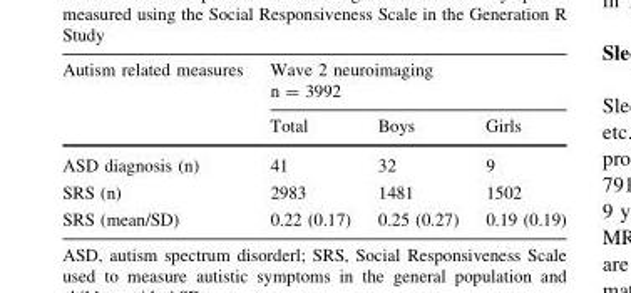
<table><thead><tr><td rowspan="2">Autism related measures</td><td colspan="3">Wave 2 neuroimaging n = 3992</td></tr><tr><td>Total</td><td>Boys</td><td>Girls</td></tr></thead><tbody><tr><td>ASD diagnosis (n)</td><td>41</td><td>32</td><td>9</td></tr><tr><td>SRS (n)</td><td>2983</td><td>1481</td><td>1502</td></tr><tr><td>SRS (mean/SD)</td><td>0.22 (0.17)</td><td>0.25 (0.27)</td><td>0.19 (0.19)</td></tr></tbody></table>